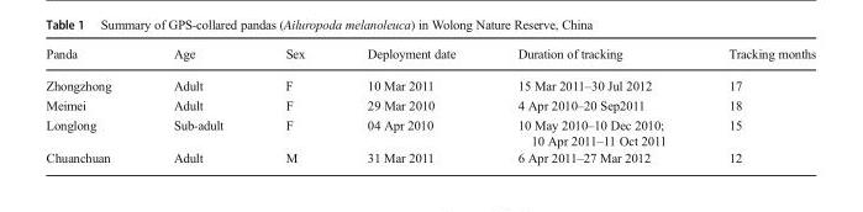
<table><thead><tr><td>Panda</td><td>Age</td><td>Sex</td><td>Deployment date</td><td>Duration of tracking</td><td>Tracking months</td></tr></thead><tbody><tr><td>Zhongzhong</td><td>Adult</td><td>F</td><td>10 Mar 2011</td><td>15 Mar 2011–30 Jul 2012</td><td>17</td></tr><tr><td>Meimei</td><td>Adult</td><td>F</td><td>29 Mar 2010</td><td>4 Apr 2010–20 Sep2011</td><td>18</td></tr><tr><td>Longlong</td><td>Sub-adult</td><td>F</td><td>04 Apr 2010</td><td>10 May 2010–10 Dec 2010; 10 Apr 2011–11 Oct 2011</td><td>15</td></tr><tr><td>Chuanchuan</td><td>Adult</td><td>M</td><td>31 Mar 2011</td><td>6 Apr 2011–27 Mar 2012</td><td>12</td></tr></tbody></table>